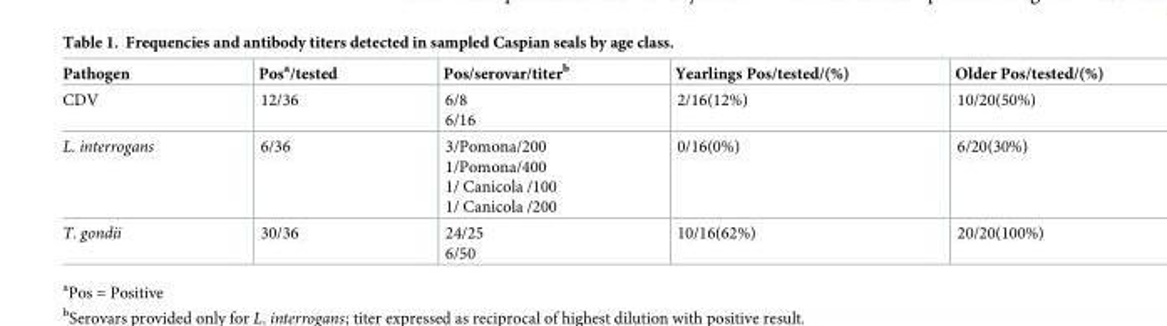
<table><thead><tr><td>Pathogen</td><td>Pos<sup>a</sup>/tested</td><td>Pos/serovar/titer<sup>b</sup></td><td>Yearlings Pos/tested/(%)</td><td>Older Pos/tested/(%)</td></tr></thead><tbody><tr><td>CDV</td><td>12/36</td><td>6/8 6/16</td><td>2/16(12%)</td><td>10/20(50%)</td></tr><tr><td>L. interrogans</td><td>6/36</td><td>3/Pomona/200 1/Pomona/400 1/ Canicola /100 1/ Canicola /200</td><td>0/16(0%)</td><td>6/20(30%)</td></tr><tr><td>T. gondii</td><td>30/36</td><td>24/25 6/50</td><td>10/16(62%)</td><td>20/20(100%)</td></tr></tbody></table>